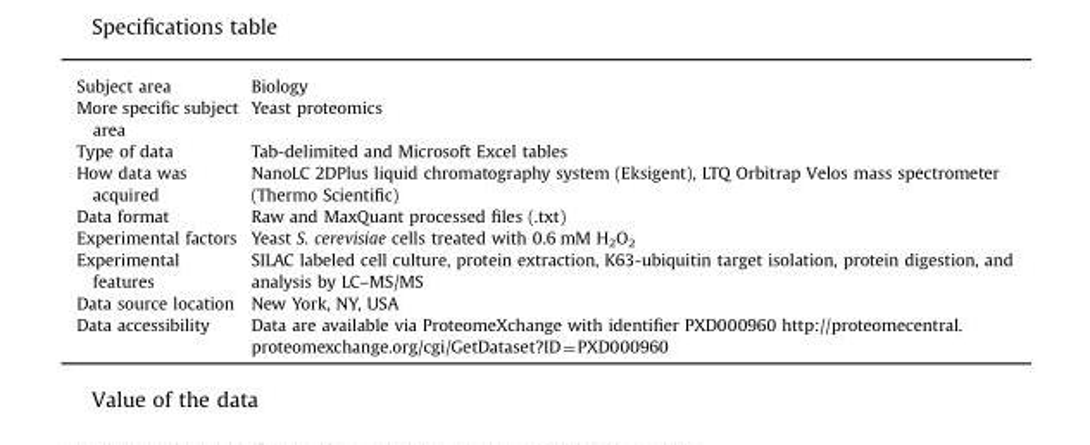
<table><tbody><tr><td>Subject area</td><td>Biology</td></tr><tr><td>More specific subject area</td><td>Yeast proteomics</td></tr><tr><td>Type of data</td><td>Tab-delimited and Microsoft Excel tables</td></tr><tr><td>How data was acquired</td><td>NanoLC 2DPlus liquid chromatography system (Eksigent), LTQ Orbitrap Velos mass spectrometer (Thermo Scientific)</td></tr><tr><td>Data format</td><td>Raw and MaxQuant processed files (.txt)</td></tr><tr><td>Experimental factors</td><td>Yeast S. cerevisiae cells treated with 0.6 mM H<sub>2</sub>O<sub>2</sub></td></tr><tr><td>Experimental features</td><td>SILAC labeled cell culture, protein extraction, K63-ubiquitin target isolation, protein digestion, and analysis by LC–MS/MS</td></tr><tr><td>Data source location</td><td>New York, NY, USA</td></tr><tr><td>Data accessibility</td><td>Data are available via ProteomeXchange with identifier PXD000960 http://proteomecentral. proteomexchange.org/cgi/GetDataset?ID=PXD000960</td></tr></tbody></table>